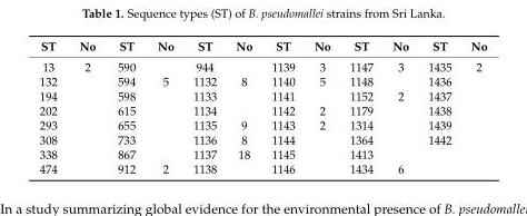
<table><thead><tr><td>ST</td><td>No</td><td>ST</td><td>No</td><td>ST</td><td>No</td><td>ST</td><td>No</td><td>ST</td><td>No</td><td>ST</td><td>No</td></tr></thead><tbody><tr><td>13</td><td>2</td><td>590</td><td></td><td>944</td><td></td><td>1139</td><td>3</td><td>1147</td><td>3</td><td>1435</td><td>2</td></tr><tr><td>132</td><td></td><td>594</td><td>5</td><td>1132</td><td>8</td><td>1140</td><td>5</td><td>1148</td><td></td><td>1436</td><td></td></tr><tr><td>194</td><td></td><td>598</td><td></td><td>1133</td><td></td><td>1141</td><td></td><td>1152</td><td>2</td><td>1437</td><td></td></tr><tr><td>202</td><td></td><td>615</td><td></td><td>1134</td><td></td><td>1142</td><td>2</td><td>1179</td><td></td><td>1438</td><td></td></tr><tr><td>293</td><td></td><td>655</td><td></td><td>1135</td><td>9</td><td>1143</td><td>2</td><td>1314</td><td></td><td>1439</td><td></td></tr><tr><td>308</td><td></td><td>733</td><td></td><td>1136</td><td>8</td><td>1144</td><td></td><td>1364</td><td></td><td>1442</td><td></td></tr><tr><td>338</td><td></td><td>867</td><td></td><td>1137</td><td>18</td><td>1145</td><td></td><td>1413</td><td></td><td></td><td></td></tr><tr><td>474</td><td></td><td>912</td><td>2</td><td>1138</td><td></td><td>1146</td><td></td><td>1434</td><td>6</td><td></td><td></td></tr></tbody></table>